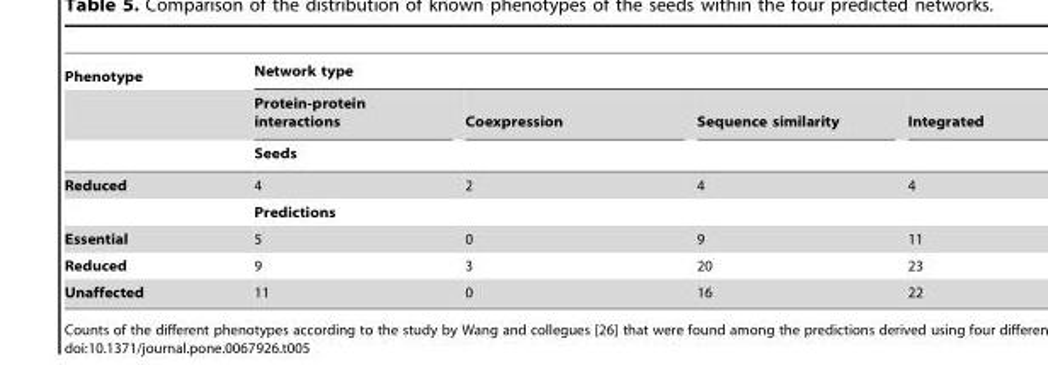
<table><thead><tr><td rowspan="3">Phenotype</td><td colspan="4">Network type</td></tr><tr><td>Protein-protein interactions</td><td>Coexpression</td><td>Sequence similarity</td><td>Integrated</td></tr><tr><td colspan="4">Seeds</td></tr></thead><tbody><tr><td rowspan="2">Reduced</td><td>4</td><td>2</td><td>4</td><td>4</td></tr><tr><td colspan="4">Predictions</td></tr><tr><td>Essential</td><td>5</td><td>0</td><td>9</td><td>11</td></tr><tr><td>Reduced</td><td>9</td><td>3</td><td>20</td><td>23</td></tr><tr><td>Unaffected</td><td>11</td><td>0</td><td>16</td><td>22</td></tr></tbody></table>